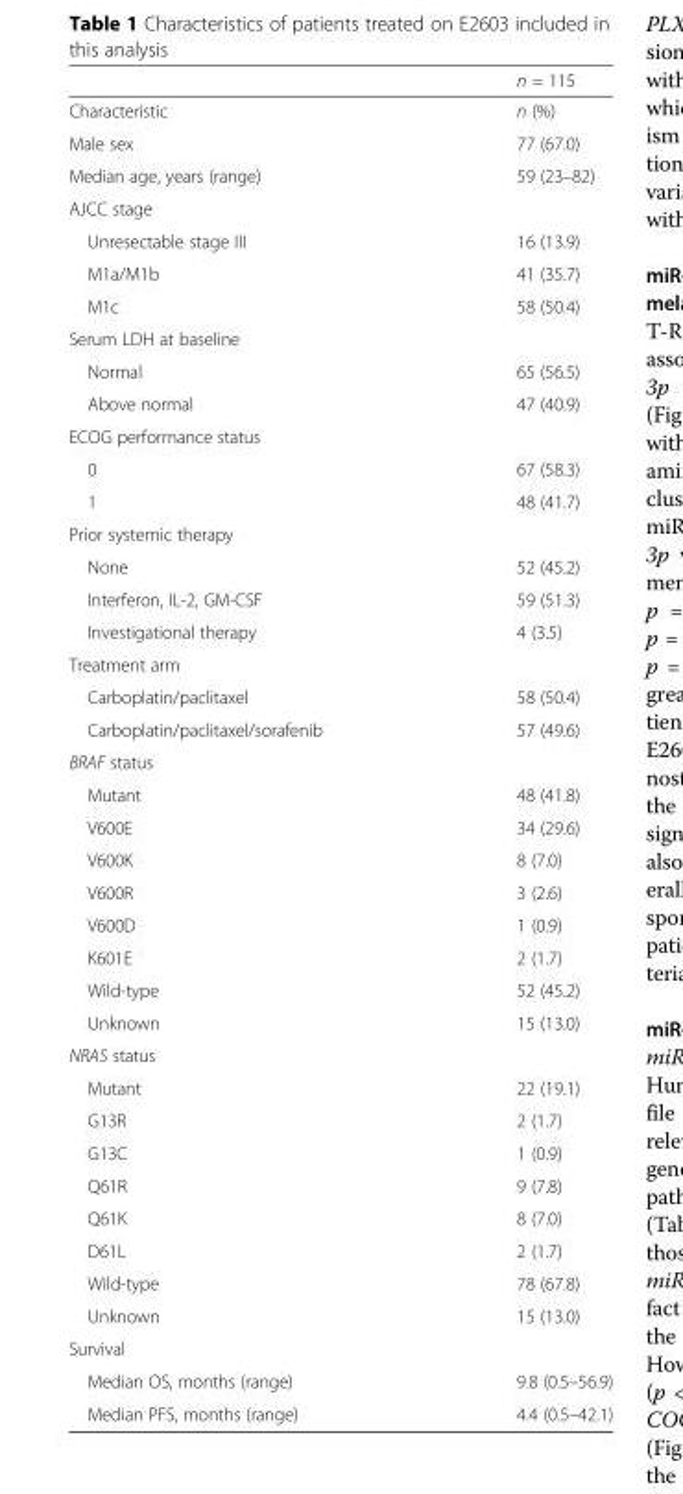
<table><thead><tr><td></td><td>n = 115</td></tr></thead><tbody><tr><td>Characteristic</td><td>n (%)</td></tr><tr><td>Male sex</td><td>77 (67.0)</td></tr><tr><td>Median age, years (range)</td><td>59 (23–82)</td></tr><tr><td colspan="2">AJCC stage</td></tr><tr><td>Unresectable stage III</td><td>16 (13.9)</td></tr><tr><td>M1a/M1b</td><td>41 (35.7)</td></tr><tr><td>M1c</td><td>58 (50.4)</td></tr><tr><td colspan="2">Serum LDH at baseline</td></tr><tr><td>Normal</td><td>65 (56.5)</td></tr><tr><td>Above normal</td><td>47 (40.9)</td></tr><tr><td colspan="2">ECOG performance status</td></tr><tr><td>0</td><td>67 (58.3)</td></tr><tr><td>1</td><td>48 (41.7)</td></tr><tr><td colspan="2">Prior systemic therapy</td></tr><tr><td>None</td><td>52 (45.2)</td></tr><tr><td>Interferon, IL-2, GM-CSF</td><td>59 (51.3)</td></tr><tr><td>Investigational therapy</td><td>4 (3.5)</td></tr><tr><td colspan="2">Treatment arm</td></tr><tr><td>Carboplatin/paclitaxel</td><td>58 (50.4)</td></tr><tr><td>Carboplatin/paclitaxel/sorafenib</td><td>57 (49.6)</td></tr><tr><td colspan="2">BRAF status</td></tr><tr><td>Mutant</td><td>48 (41.8)</td></tr><tr><td>V600E</td><td>34 (29.6)</td></tr><tr><td>V600K</td><td>8 (7.0)</td></tr><tr><td>V600R</td><td>3 (2.6)</td></tr><tr><td>V600D</td><td>1 (0.9)</td></tr><tr><td>K601E</td><td>2 (1.7)</td></tr><tr><td>Wild-type</td><td>52 (45.2)</td></tr><tr><td>Unknown</td><td>15 (13.0)</td></tr><tr><td colspan="2">NRAS status</td></tr><tr><td>Mutant</td><td>22 (19.1)</td></tr><tr><td>G13R</td><td>2 (1.7)</td></tr><tr><td>G13C</td><td>1 (0.9)</td></tr><tr><td>Q61R</td><td>9 (7.8)</td></tr><tr><td>Q61K</td><td>8 (7.0)</td></tr><tr><td>D61L</td><td>2 (1.7)</td></tr><tr><td>Wild-type</td><td>78 (67.8)</td></tr><tr><td>Unknown</td><td>15 (13.0)</td></tr><tr><td colspan="2">Survival</td></tr><tr><td>Median OS, months (range)</td><td>9.8 (0.5–56.9)</td></tr><tr><td>Median PFS, months (range)</td><td>4.4 (0.5–42.1)</td></tr></tbody></table>